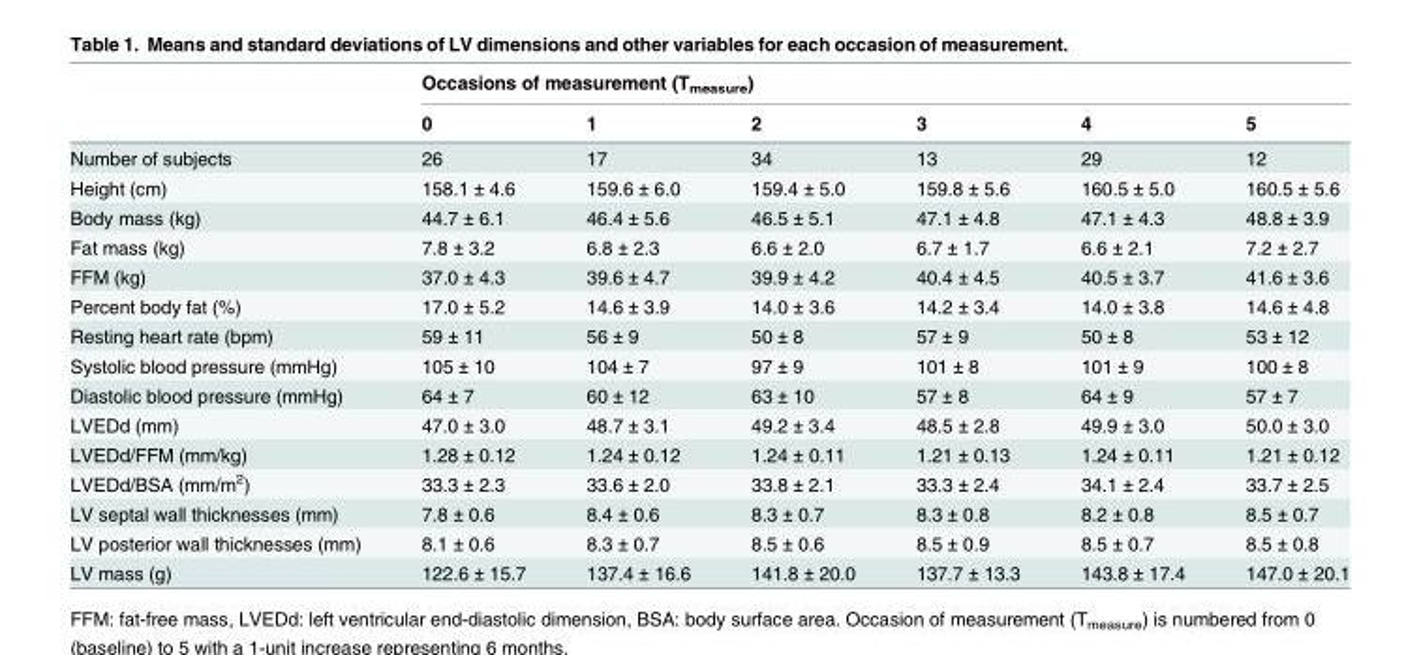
<table><thead><tr><td rowspan="2"></td><td colspan="6">Occasions of measurement (T<sub>measure</sub>)</td></tr><tr><td>0</td><td>1</td><td>2</td><td>3</td><td>4</td><td>5</td></tr></thead><tbody><tr><td>Number of subjects</td><td>26</td><td>17</td><td>34</td><td>13</td><td>29</td><td>12</td></tr><tr><td>Height (cm)</td><td>158.1 ± 4.6</td><td>159.6 ± 6.0</td><td>159.4 ± 5.0</td><td>159.8 ± 5.6</td><td>160.5 ± 5.0</td><td>160.5 ± 5.6</td></tr><tr><td>Body mass (kg)</td><td>44.7 ± 6.1</td><td>46.4 ± 5.6</td><td>46.5 ± 5.1</td><td>47.1 ± 4.8</td><td>47.1 ± 4.3</td><td>48.8 ± 3.9</td></tr><tr><td>Fat mass (kg)</td><td>7.8 ± 3.2</td><td>6.8 ± 2.3</td><td>6.6 ± 2.0</td><td>6.7 ± 1.7</td><td>6.6 ± 2.1</td><td>7.2 ± 2.7</td></tr><tr><td>FFM (kg)</td><td>37.0 ± 4.3</td><td>39.6 ± 4.7</td><td>39.9 ± 4.2</td><td>40.4 ± 4.5</td><td>40.5 ± 3.7</td><td>41.6 ± 3.6</td></tr><tr><td>Percent body fat (%)</td><td>17.0 ± 5.2</td><td>14.6 ± 3.9</td><td>14.0 ± 3.6</td><td>14.2 ± 3.4</td><td>14.0 ± 3.8</td><td>14.6 ± 4.8</td></tr><tr><td>Resting heart rate (bpm)</td><td>59 ± 11</td><td>56 ± 9</td><td>50 ± 8</td><td>57 ± 9</td><td>50 ± 8</td><td>53 ± 12</td></tr><tr><td>Systolic blood pressure (mmHg)</td><td>105 ± 10</td><td>104 ± 7</td><td>97 ± 9</td><td>101 ± 8</td><td>101 ± 9</td><td>100 ± 8</td></tr><tr><td>Diastolic blood pressure (mmHg)</td><td>64 ± 7</td><td>60 ± 12</td><td>63 ± 10</td><td>57 ± 8</td><td>64 ± 9</td><td>57 ± 7</td></tr><tr><td>LVEDd (mm)</td><td>47.0 ± 3.0</td><td>48.7 ± 3.1</td><td>49.2 ± 3.4</td><td>48.5 ± 2.8</td><td>49.9 ± 3.0</td><td>50.0 ± 3.0</td></tr><tr><td>LVEDd/FFM (mm/kg)</td><td>1.28 ± 0.12</td><td>1.24 ± 0.12</td><td>1.24 ± 0.11</td><td>1.21 ± 0.13</td><td>1.24 ± 0.11</td><td>1.21 ± 0.12</td></tr><tr><td>LVEDd/BSA (mm/m<sup>2</sup>)</td><td>33.3 ± 2.3</td><td>33.6 ± 2.0</td><td>33.8 ± 2.1</td><td>33.3 ± 2.4</td><td>34.1 ± 2.4</td><td>33.7 ± 2.5</td></tr><tr><td>LV septal wall thicknesses (mm)</td><td>7.8 ± 0.6</td><td>8.4 ± 0.6</td><td>8.3 ± 0.7</td><td>8.3 ± 0.8</td><td>8.2 ± 0.8</td><td>8.5 ± 0.7</td></tr><tr><td>LV posterior wall thicknesses (mm)</td><td>8.1 ± 0.6</td><td>8.3 ± 0.7</td><td>8.5 ± 0.6</td><td>8.5 ± 0.9</td><td>8.5 ± 0.7</td><td>8.5 ± 0.8</td></tr><tr><td>LV mass (g)</td><td>122.6 ± 15.7</td><td>137.4 ± 16.6</td><td>141.8 ± 20.0</td><td>137.7 ± 13.3</td><td>143.8 ± 17.4</td><td>147.0 ± 20.1</td></tr></tbody></table>